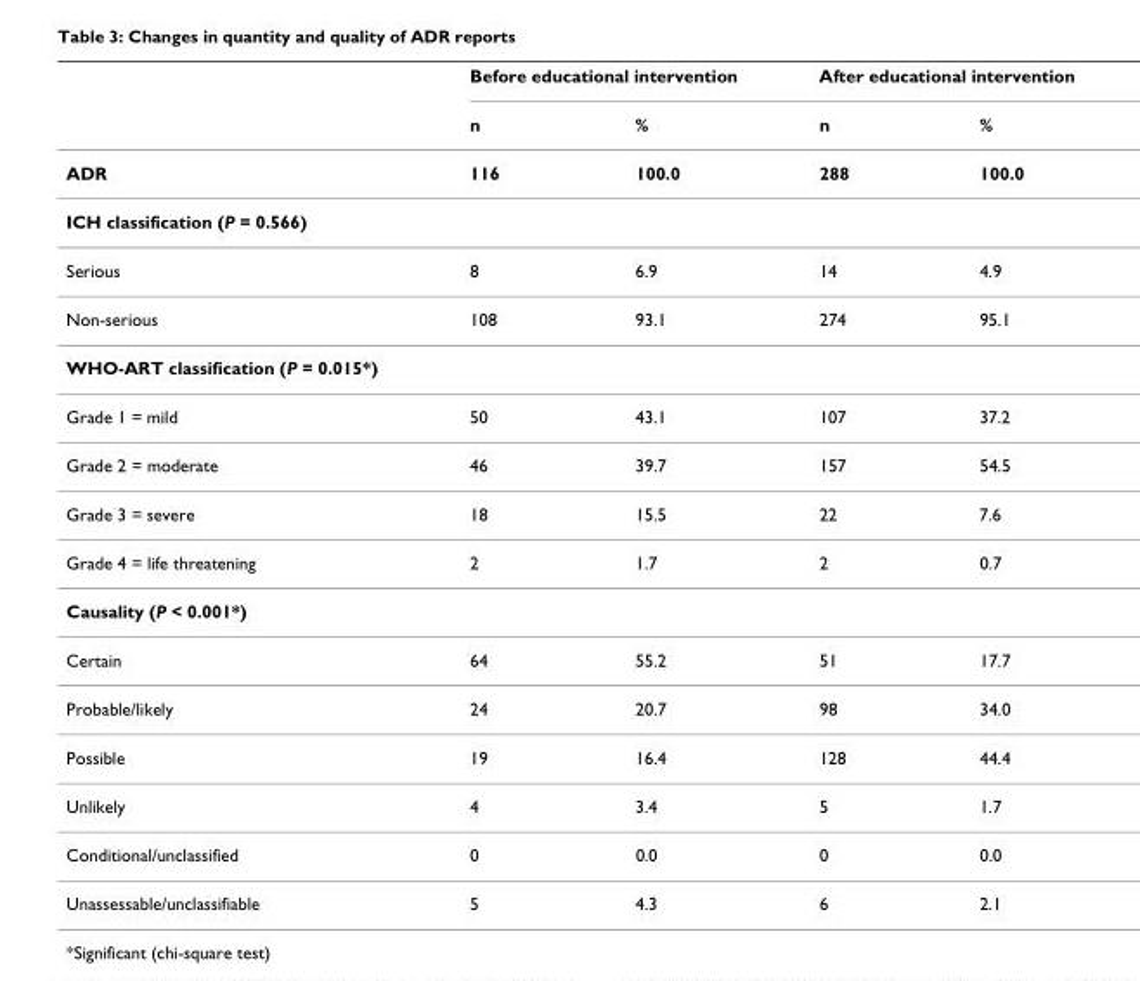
<table><thead><tr><td rowspan="2"></td><td colspan="2">Before educational intervention</td><td colspan="2">After educational intervention</td></tr><tr><td>n</td><td>%</td><td>n</td><td>%</td></tr></thead><tbody><tr><td>ADR</td><td>116</td><td>100.0</td><td>288</td><td>100.0</td></tr><tr><td colspan="5">ICH classification (P = 0.566)</td></tr><tr><td>Serious</td><td>8</td><td>6.9</td><td>14</td><td>4.9</td></tr><tr><td>Non-serious</td><td>108</td><td>93.1</td><td>274</td><td>95.1</td></tr><tr><td colspan="5">WHO-ART classification (P = 0.015*)</td></tr><tr><td>Grade 1 = mild</td><td>50</td><td>43.1</td><td>107</td><td>37.2</td></tr><tr><td>Grade 2 = moderate</td><td>46</td><td>39.7</td><td>157</td><td>54.5</td></tr><tr><td>Grade 3 = severe</td><td>18</td><td>15.5</td><td>22</td><td>7.6</td></tr><tr><td>Grade 4 = life threatening</td><td>2</td><td>1.7</td><td>2</td><td>0.7</td></tr><tr><td colspan="5">Causality (P &lt; 0.001*)</td></tr><tr><td>Certain</td><td>64</td><td>55.2</td><td>51</td><td>17.7</td></tr><tr><td>Probable/likely</td><td>24</td><td>20.7</td><td>98</td><td>34.0</td></tr><tr><td>Possible</td><td>19</td><td>16.4</td><td>128</td><td>44.4</td></tr><tr><td>Unlikely</td><td>4</td><td>3.4</td><td>5</td><td>1.7</td></tr><tr><td>Conditional/unclassified</td><td>0</td><td>0.0</td><td>0</td><td>0.0</td></tr><tr><td>Unassessable/unclassifiable</td><td>5</td><td>4.3</td><td>6</td><td>2.1</td></tr></tbody></table>